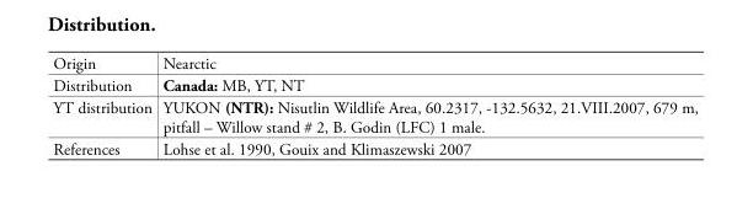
<table><tbody><tr><td>Origin</td><td>Nearctic</td></tr><tr><td>Distribution</td><td>Canada: MB, YT, NT</td></tr><tr><td>YT distribution</td><td>YUKON (NTR): Nisutlin Wildlife Area, 60.2317, -132.5632, 21.VIII.2007, 679 m, pitfall – Willow stand # 2, B. Godin (LFC) 1 male.</td></tr><tr><td>References</td><td>Lohse et al. 1990, Gouix and Klimaszewski 2007</td></tr></tbody></table>